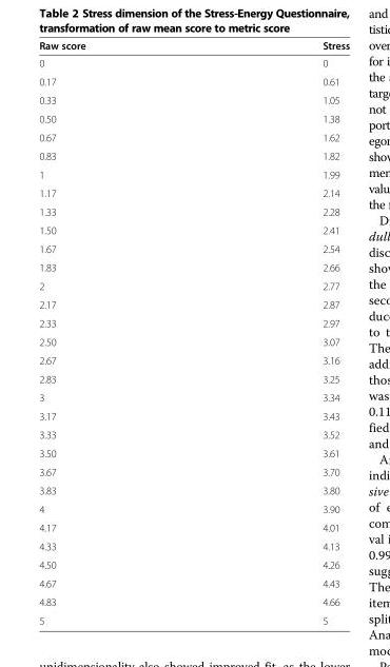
<table><thead><tr><td>Raw score</td><td>Stress</td></tr></thead><tbody><tr><td>0</td><td>0</td></tr><tr><td>0.17</td><td>0.61</td></tr><tr><td>0.33</td><td>1.05</td></tr><tr><td>0.50</td><td>1.38</td></tr><tr><td>0.67</td><td>1.62</td></tr><tr><td>0.83</td><td>1.82</td></tr><tr><td>1</td><td>1.99</td></tr><tr><td>1.17</td><td>2.14</td></tr><tr><td>1.33</td><td>2.28</td></tr><tr><td>1.50</td><td>2.41</td></tr><tr><td>1.67</td><td>2.54</td></tr><tr><td>1.83</td><td>2.66</td></tr><tr><td>2</td><td>2.77</td></tr><tr><td>2.17</td><td>2.87</td></tr><tr><td>2.33</td><td>2.97</td></tr><tr><td>2.50</td><td>3.07</td></tr><tr><td>2.67</td><td>3.16</td></tr><tr><td>2.83</td><td>3.25</td></tr><tr><td>3</td><td>3.34</td></tr><tr><td>3.17</td><td>3.43</td></tr><tr><td>3.33</td><td>3.52</td></tr><tr><td>3.50</td><td>3.61</td></tr><tr><td>3.67</td><td>3.70</td></tr><tr><td>3.83</td><td>3.80</td></tr><tr><td>4</td><td>3.90</td></tr><tr><td>4.17</td><td>4.01</td></tr><tr><td>4.33</td><td>4.13</td></tr><tr><td>4.50</td><td>4.26</td></tr><tr><td>4.67</td><td>4.43</td></tr><tr><td>4.83</td><td>4.66</td></tr><tr><td>5</td><td>5</td></tr></tbody></table>